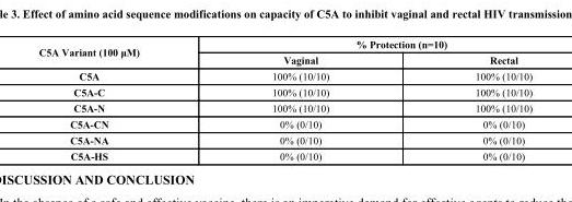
<table><thead><tr><td rowspan="2">C5A Variant (100 μM)</td><td colspan="2">% Protection (n=10)</td></tr><tr><td>Vaginal</td><td>Rectal</td></tr></thead><tbody><tr><td>C5A</td><td>100% (10/10)</td><td>100% (10/10)</td></tr><tr><td>C5A-C</td><td>100% (10/10)</td><td>100% (10/10)</td></tr><tr><td>C5A-N</td><td>100% (10/10)</td><td>100% (10/10)</td></tr><tr><td>C5A-CN</td><td>0% (0/10)</td><td>0% (0/10)</td></tr><tr><td>C5A-NA</td><td>0% (0/10)</td><td>0% (0/10)</td></tr><tr><td>C5A-HS</td><td>0% (0/10)</td><td>0% (0/10)</td></tr></tbody></table>